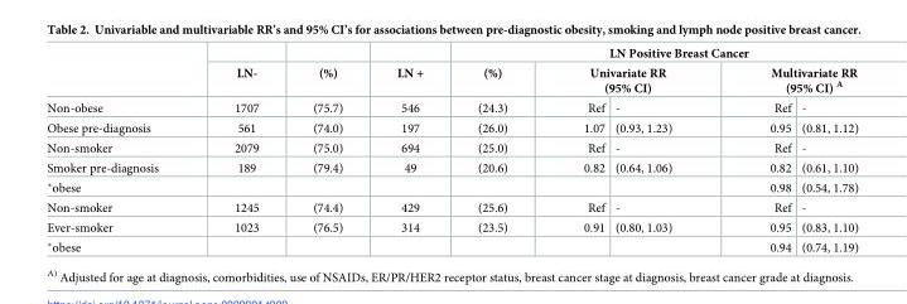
<table><thead><tr><td rowspan="3">Non-obese</td><td rowspan="3">LN- 1707</td><td rowspan="3">(%) (75.7)</td><td rowspan="3">LN + 546</td><td colspan="5">LN Positive Breast Cancer</td></tr><tr><td rowspan="2">(%) (24.3)</td><td colspan="2">Univariate RR (95% CI)</td><td colspan="2">Multivariate RR (95% CI) <sup>A</sup></td></tr><tr><td>Ref</td><td>-</td><td>Ref</td><td>-</td></tr></thead><tbody><tr><td>Obese pre-diagnosis</td><td>561</td><td>(74.0)</td><td>197</td><td>(26.0)</td><td>1.07</td><td>(0.93, 1.23)</td><td>0.95</td><td>(0.81, 1.12)</td></tr><tr><td>Non-smoker</td><td>2079</td><td>(75.0)</td><td>694</td><td>(25.0)</td><td>Ref</td><td>-</td><td>Ref</td><td>-</td></tr><tr><td>Smoker pre-diagnosis</td><td>189</td><td>(79.4)</td><td>49</td><td>(20.6)</td><td>0.82</td><td>(0.64, 1.06)</td><td>0.82</td><td>(0.61, 1.10)</td></tr><tr><td>*obese</td><td></td><td></td><td></td><td></td><td></td><td></td><td>0.98</td><td>(0.54, 1.78)</td></tr><tr><td>Non-smoker</td><td>1245</td><td>(74.4)</td><td>429</td><td>(25.6)</td><td>Ref</td><td>-</td><td>Ref</td><td>-</td></tr><tr><td>Ever-smoker</td><td>1023</td><td>(76.5)</td><td>314</td><td>(23.5)</td><td>0.91</td><td>(0.80, 1.03)</td><td>0.95</td><td>(0.83, 1.10)</td></tr><tr><td>*obese</td><td></td><td></td><td></td><td></td><td></td><td></td><td>0.94</td><td>(0.74, 1.19)</td></tr></tbody></table>